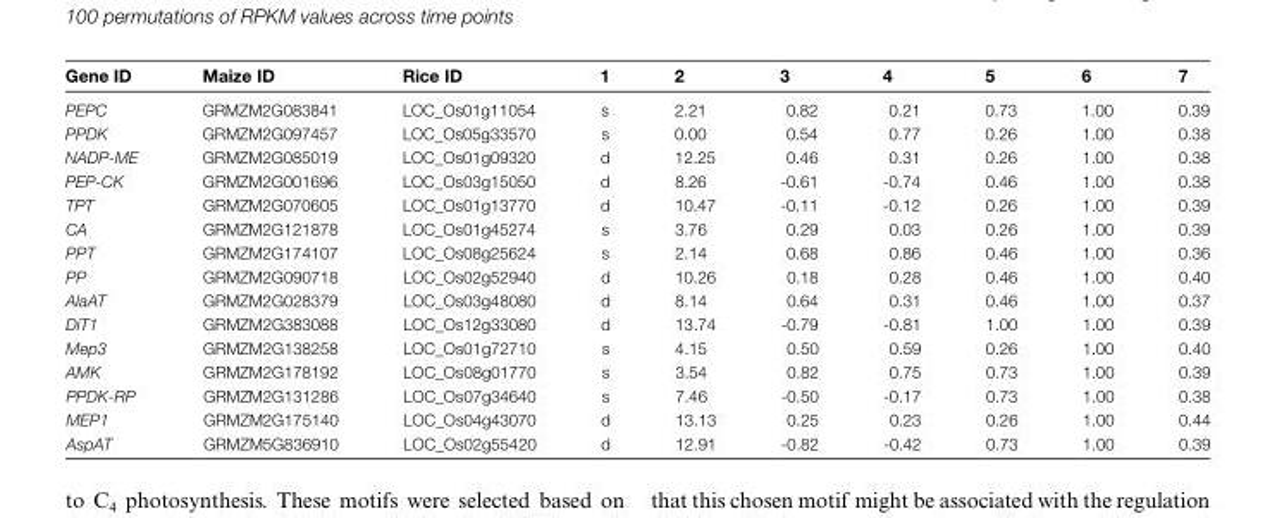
<table><thead><tr><td>Gene ID</td><td>Maize ID</td><td>Rice ID</td><td>1</td><td>2</td><td>3</td><td>4</td><td>5</td><td>6</td><td>7</td></tr></thead><tbody><tr><td>PEPC</td><td>GRMZM2G083841</td><td>LOC_Os01g11054</td><td>s</td><td>2.21</td><td>0.82</td><td>0.21</td><td>0.73</td><td>1.00</td><td>0.39</td></tr><tr><td>PPDK</td><td>GRMZM2G097457</td><td>LOC_Os05g33570</td><td>s</td><td>0.00</td><td>0.54</td><td>0.77</td><td>0.26</td><td>1.00</td><td>0.38</td></tr><tr><td>NADP-ME</td><td>GRMZM2G085019</td><td>LOC_Os01g09320</td><td>d</td><td>12.25</td><td>0.46</td><td>0.31</td><td>0.26</td><td>1.00</td><td>0.38</td></tr><tr><td>PEP-CK</td><td>GRMZM2G001696</td><td>LOC_Os03g15050</td><td>d</td><td>8.26</td><td>-0.61</td><td>-0.74</td><td>0.46</td><td>1.00</td><td>0.38</td></tr><tr><td>TPT</td><td>GRMZM2G070605</td><td>LOC_Os01g13770</td><td>d</td><td>10.47</td><td>-0.11</td><td>-0.12</td><td>0.26</td><td>1.00</td><td>0.39</td></tr><tr><td>CA</td><td>GRMZM2G121878</td><td>LOC_Os01g45274</td><td>s</td><td>3.76</td><td>0.29</td><td>0.03</td><td>0.26</td><td>1.00</td><td>0.39</td></tr><tr><td>PPT</td><td>GRMZM2G174107</td><td>LOC_Os08g25624</td><td>s</td><td>2.14</td><td>0.68</td><td>0.86</td><td>0.46</td><td>1.00</td><td>0.36</td></tr><tr><td>PP</td><td>GRMZM2G090718</td><td>LOC_Os02g52940</td><td>d</td><td>10.26</td><td>0.18</td><td>0.28</td><td>0.46</td><td>1.00</td><td>0.40</td></tr><tr><td>AlaAT</td><td>GRMZM2G028379</td><td>LOC_Os03g48080</td><td>d</td><td>8.14</td><td>0.64</td><td>0.31</td><td>0.46</td><td>1.00</td><td>0.37</td></tr><tr><td>DiT1</td><td>GRMZM2G383088</td><td>LOC_Os12g33080</td><td>d</td><td>13.74</td><td>-0.79</td><td>-0.81</td><td>1.00</td><td>1.00</td><td>0.39</td></tr><tr><td>Mep3</td><td>GRMZM2G138258</td><td>LOC_Os01g72710</td><td>s</td><td>4.15</td><td>0.50</td><td>0.59</td><td>0.26</td><td>1.00</td><td>0.40</td></tr><tr><td>AMK</td><td>GRMZM2G178192</td><td>LOC_Os08g01770</td><td>s</td><td>3.54</td><td>0.82</td><td>0.75</td><td>0.73</td><td>1.00</td><td>0.39</td></tr><tr><td>PPDK-RP</td><td>GRMZM2G131286</td><td>LOC_Os07g34640</td><td>s</td><td>7.46</td><td>-0.50</td><td>-0.17</td><td>0.73</td><td>1.00</td><td>0.38</td></tr><tr><td>MEP1</td><td>GRMZM2G175140</td><td>LOC_Os04g43070</td><td>d</td><td>13.13</td><td>0.25</td><td>0.23</td><td>0.26</td><td>1.00</td><td>0.44</td></tr><tr><td>AspAT</td><td>GRMZM5G836910</td><td>LOC_Os02g55420</td><td>d</td><td>12.91</td><td>-0.82</td><td>-0.42</td><td>0.73</td><td>1.00</td><td>0.39</td></tr></tbody></table>